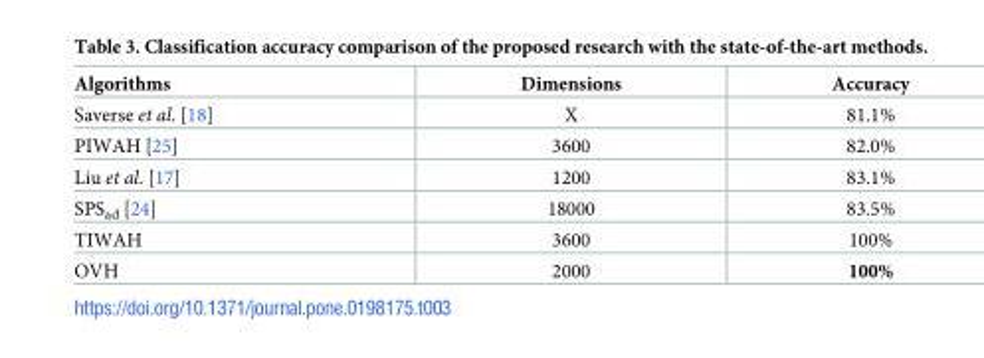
<table><thead><tr><td>Algorithms</td><td>Dimensions</td><td>Accuracy</td></tr></thead><tbody><tr><td>Saverse et al. [18]</td><td>X</td><td>81.1%</td></tr><tr><td>PIWAH [25]</td><td>3600</td><td>82.0%</td></tr><tr><td>Liu et al. [17]</td><td>1200</td><td>83.1%</td></tr><tr><td>SPS<sub>ad</sub> [24]</td><td>18000</td><td>83.5%</td></tr><tr><td>TIWAH</td><td>3600</td><td>100%</td></tr><tr><td>OVH</td><td>2000</td><td>100%</td></tr></tbody></table>